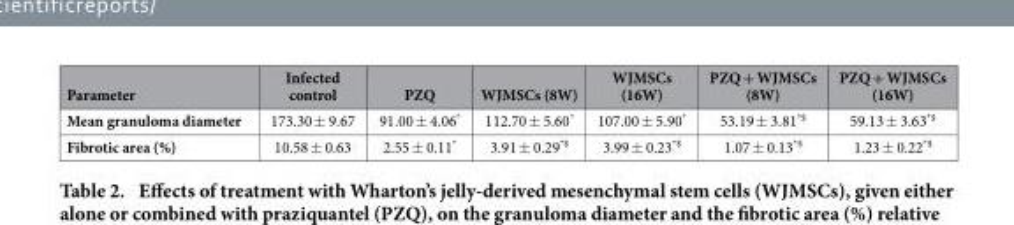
<table><thead><tr><td>Parameter</td><td>Infected control</td><td>PZQ</td><td>WJMSCs (8W)</td><td>WJMSCs (16W)</td><td>PZQ + WJMSCs (8W)</td><td>PZQ + WJMSCs (16W)</td></tr></thead><tbody><tr><td>Mean granuloma diameter</td><td>173.30 ± 9.67</td><td>91.00 ± 4.06*</td><td>112.70 ± 5.60*</td><td>107.00 ± 5.90*</td><td>53.19 ± 3.81*$</td><td>59.13 ± 3.63*$</td></tr><tr><td>Fibrotic area (%)</td><td>10.58 ± 0.63</td><td>2.55 ± 0.11*</td><td>3.91 ± 0.29*$</td><td>3.99 ± 0.23*$</td><td>1.07 ± 0.13*$</td><td>1.23 ± 0.22*$</td></tr></tbody></table>